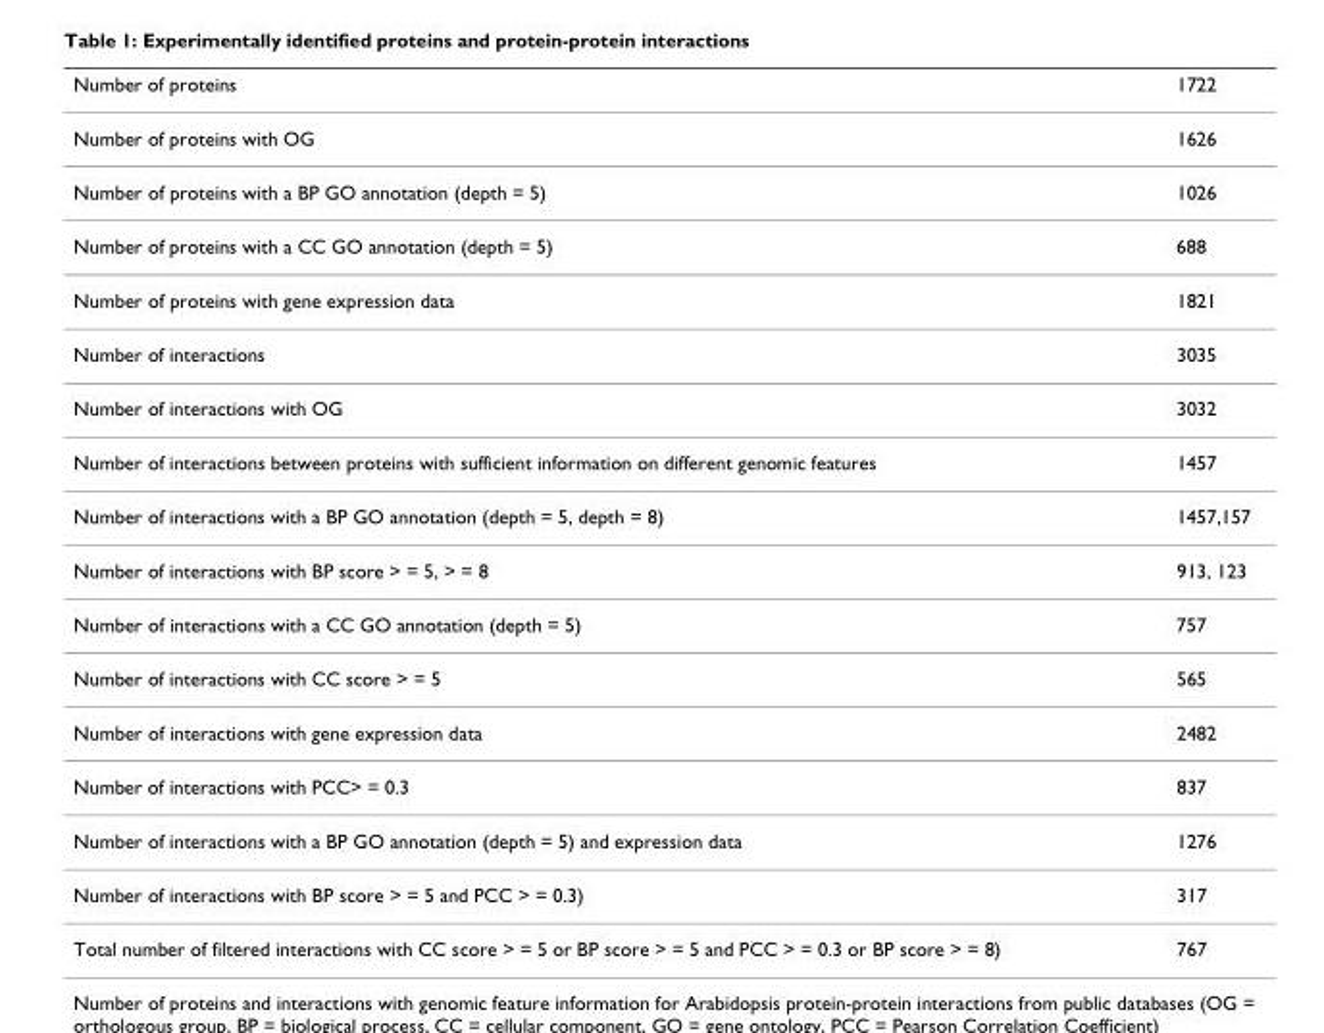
<table><thead><tr><td>Number of proteins</td><td>1722</td></tr></thead><tbody><tr><td>Number of proteins with OG</td><td>1626</td></tr><tr><td>Number of proteins with a BP GO annotation (depth = 5)</td><td>1026</td></tr><tr><td>Number of proteins with a CC GO annotation (depth = 5)</td><td>688</td></tr><tr><td>Number of proteins with gene expression data</td><td>1821</td></tr><tr><td>Number of interactions</td><td>3035</td></tr><tr><td>Number of interactions with OG</td><td>3032</td></tr><tr><td>Number of interactions between proteins with sufficient information on different genomic features</td><td>1457</td></tr><tr><td>Number of interactions with a BP GO annotation (depth = 5, depth = 8)</td><td>1457,157</td></tr><tr><td>Number of interactions with BP score &gt; = 5, &gt; = 8</td><td>913, 123</td></tr><tr><td>Number of interactions with a CC GO annotation (depth = 5)</td><td>757</td></tr><tr><td>Number of interactions with CC score &gt; = 5</td><td>565</td></tr><tr><td>Number of interactions with gene expression data</td><td>2482</td></tr><tr><td>Number of interactions with PCC&gt; = 0.3</td><td>837</td></tr><tr><td>Number of interactions with a BP GO annotation (depth = 5) and expression data</td><td>1276</td></tr><tr><td>Number of interactions with BP score &gt; = 5 and PCC &gt; = 0.3)</td><td>317</td></tr><tr><td>Total number of filtered interactions with CC score &gt; = 5 or BP score &gt; = 5 and PCC &gt; = 0.3 or BP score &gt; = 8)</td><td>767</td></tr></tbody></table>